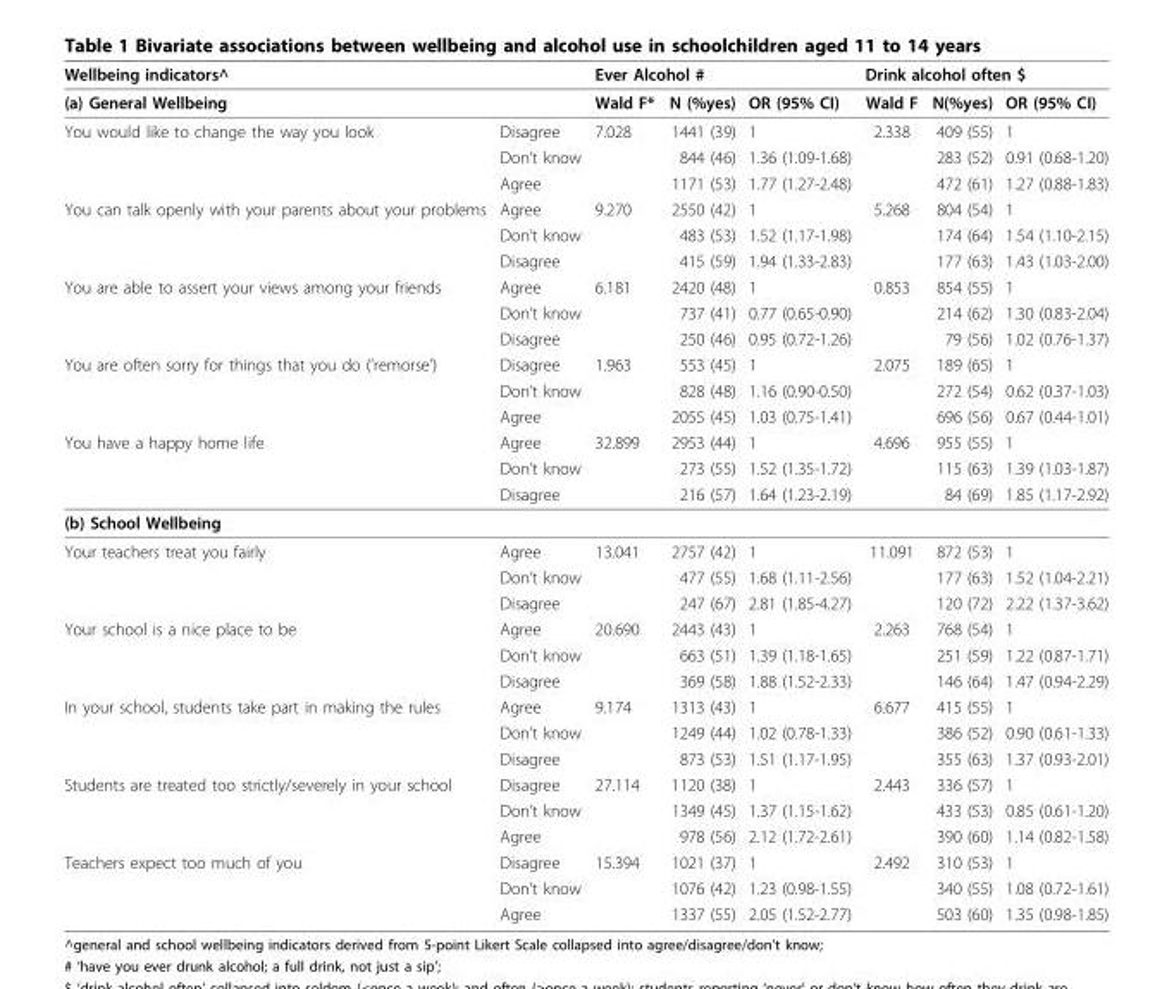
<table><thead><tr><td rowspan="2" colspan="2">Wellbeing indicators^ (a) General Wellbeing</td><td colspan="3">Ever Alcohol #</td><td colspan="3">Drink alcohol often $</td></tr><tr><td rowspan="2">Wald F* 7.028</td><td rowspan="2">N (%yes) 1441 (39)</td><td rowspan="2">OR (95% CI) 1</td><td rowspan="2">Wald F 2.338</td><td rowspan="2">N(%yes) 409 (55)</td><td rowspan="2">OR (95% CI) 1</td></tr><tr><td>You would like to change the way you look</td><td>Disagree</td></tr></thead><tbody><tr><td></td><td>Don’t know</td><td></td><td>844 (46)</td><td>1.36 (1.09-1.68)</td><td></td><td>283 (52)</td><td>0.91 (0.68-1.20)</td></tr><tr><td></td><td>Agree</td><td></td><td>1171 (53)</td><td>1.77 (1.27-2.48)</td><td></td><td>472 (61)</td><td>1.27 (0.88-1.83)</td></tr><tr><td rowspan="3">You can talk openly with your parents about your problems</td><td>Agree</td><td>9.270</td><td>2550 (42)</td><td>1</td><td>5.268</td><td>804 (54)</td><td>1</td></tr><tr><td>Don’t know</td><td></td><td>483 (53)</td><td>1.52 (1.17-1.98)</td><td></td><td>174 (64)</td><td>1.54 (1.10-2.15)</td></tr><tr><td>Disagree</td><td></td><td>415 (59)</td><td>1.94 (1.33-2.83)</td><td></td><td>177 (63)</td><td>1.43 (1.03-2.00)</td></tr><tr><td rowspan="3">You are able to assert your views among your friends</td><td>Agree</td><td>6.181</td><td>2420 (48)</td><td>1</td><td>0.853</td><td>854 (55)</td><td>1</td></tr><tr><td>Don’t know</td><td></td><td>737 (41)</td><td>0.77 (0.65-0.90)</td><td></td><td>214 (62)</td><td>1.30 (0.83-2.04)</td></tr><tr><td>Disagree</td><td></td><td>250 (46)</td><td>0.95 (0.72-1.26)</td><td></td><td>79 (56)</td><td>1.02 (0.76-1.37)</td></tr><tr><td rowspan="3">You are often sorry for things that you do (’remorse’)</td><td>Disagree</td><td>1.963</td><td>553 (45)</td><td>1</td><td>2.075</td><td>189 (65)</td><td>1</td></tr><tr><td>Don’t know</td><td></td><td>828 (48)</td><td>1.16 (0.90-0.50)</td><td></td><td>272 (54)</td><td>0.62 (0.37-1.03)</td></tr><tr><td>Agree</td><td></td><td>2055 (45)</td><td>1.03 (0.75-1.41)</td><td></td><td>696 (56)</td><td>0.67 (0.44-1.01)</td></tr><tr><td rowspan="3">You have a happy home life</td><td>Agree</td><td>32.899</td><td>2953 (44)</td><td>1</td><td>4.696</td><td>955 (55)</td><td>1</td></tr><tr><td>Don’t know</td><td></td><td>273 (55)</td><td>1.52 (1.35-1.72)</td><td></td><td>115 (63)</td><td>1.39 (1.03-1.87)</td></tr><tr><td>Disagree</td><td></td><td>216 (57)</td><td>1.64 (1.23-2.19)</td><td></td><td>84 (69)</td><td>1.85 (1.17-2.92)</td></tr><tr><td colspan="8">(b) School Wellbeing</td></tr><tr><td rowspan="3">Your teachers treat you fairly</td><td>Agree</td><td>13.041</td><td>2757 (42)</td><td>1</td><td>11.091</td><td>872 (53)</td><td>1</td></tr><tr><td>Don’t know</td><td></td><td>477 (55)</td><td>1.68 (1.11-2.56)</td><td></td><td>177 (63)</td><td>1.52 (1.04-2.21)</td></tr><tr><td>Disagree</td><td></td><td>247 (67)</td><td>2.81 (1.85-4.27)</td><td></td><td>120 (72)</td><td>2.22 (1.37-3.62)</td></tr><tr><td rowspan="3">Your school is a nice place to be</td><td>Agree</td><td>20.690</td><td>2443 (43)</td><td>1</td><td>2.263</td><td>768 (54)</td><td>1</td></tr><tr><td>Don’t know</td><td></td><td>663 (51)</td><td>1.39 (1.18-1.65)</td><td></td><td>251 (59)</td><td>1.22 (0.87-1.71)</td></tr><tr><td>Disagree</td><td></td><td>369 (58)</td><td>1.88 (1.52-2.33)</td><td></td><td>146 (64)</td><td>1.47 (0.94-2.29)</td></tr><tr><td rowspan="3">In your school, students take part in making the rules</td><td>Agree</td><td>9.174</td><td>1313 (43)</td><td>1</td><td>6.677</td><td>415 (55)</td><td>1</td></tr><tr><td>Don’t know</td><td></td><td>1249 (44)</td><td>1.02 (0.78-1.33)</td><td></td><td>386 (52)</td><td>0.90 (0.61-1.33)</td></tr><tr><td>Disagree</td><td></td><td>873 (53)</td><td>1.51 (1.17-1.95)</td><td></td><td>355 (63)</td><td>1.37 (0.93-2.01)</td></tr><tr><td rowspan="3">Students are treated too strictly/severely in your school</td><td>Disagree</td><td>27.114</td><td>1120 (38)</td><td>1</td><td>2.443</td><td>336 (57)</td><td>1</td></tr><tr><td>Don’t know</td><td></td><td>1349 (45)</td><td>1.37 (1.15-1.62)</td><td></td><td>433 (53)</td><td>0.85 (0.61-1.20)</td></tr><tr><td>Agree</td><td></td><td>978 (56)</td><td>2.12 (1.72-2.61)</td><td></td><td>390 (60)</td><td>1.14 (0.82-1.58)</td></tr><tr><td rowspan="3">Teachers expect too much of you</td><td>Disagree</td><td>15.394</td><td>1021 (37)</td><td>1</td><td>2.492</td><td>310 (53)</td><td>1</td></tr><tr><td>Don’t know</td><td></td><td>1076 (42)</td><td>1.23 (0.98-1.55)</td><td></td><td>340 (55)</td><td>1.08 (0.72-1.61)</td></tr><tr><td>Agree</td><td></td><td>1337 (55)</td><td>2.05 (1.52-2.77)</td><td></td><td>503 (60)</td><td>1.35 (0.98-1.85)</td></tr></tbody></table>